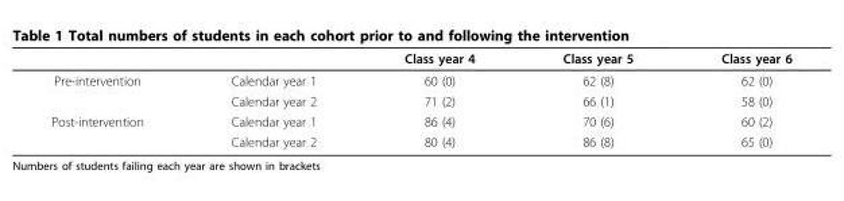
<table><thead><tr><td></td><td></td><td>Class year 4</td><td>Class year 5</td><td>Class year 6</td></tr></thead><tbody><tr><td rowspan="2">Pre-intervention</td><td>Calendar year 1</td><td>60 (0)</td><td>62 (8)</td><td>62 (0)</td></tr><tr><td>Calendar year 2</td><td>71 (2)</td><td>66 (1)</td><td>58 (0)</td></tr><tr><td rowspan="2">Post-intervention</td><td>Calendar year 1</td><td>86 (4)</td><td>70 (6)</td><td>60 (2)</td></tr><tr><td>Calendar year 2</td><td>80 (4)</td><td>86 (8)</td><td>65 (0)</td></tr></tbody></table>